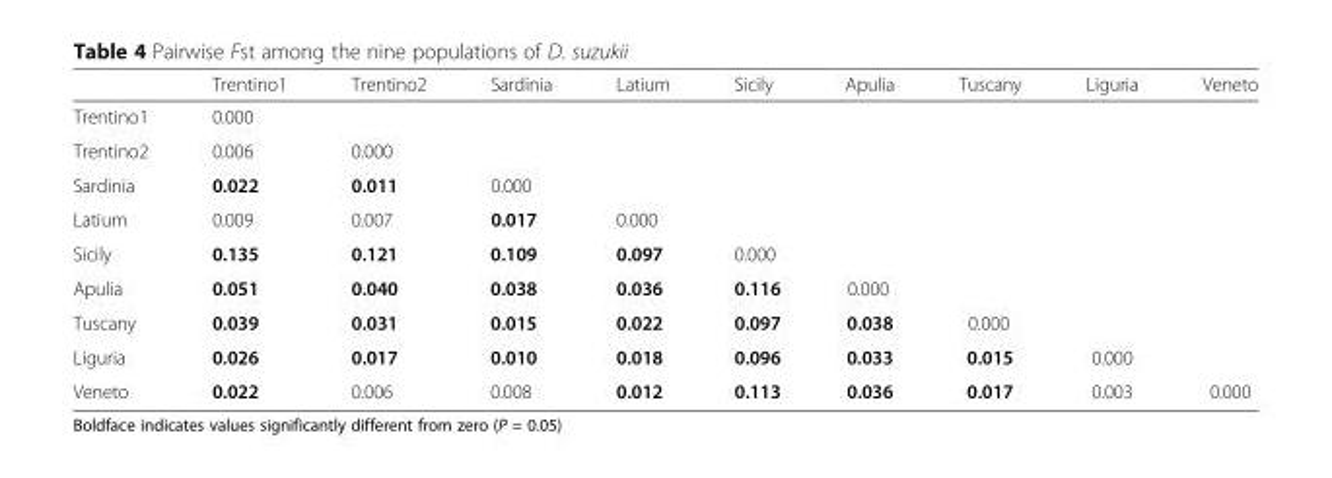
<table><thead><tr><td></td><td>Trentino1</td><td>Trentino2</td><td>Sardinia</td><td>Latium</td><td>Sicily</td><td>Apulia</td><td>Tuscany</td><td>Liguria</td><td>Veneto</td></tr></thead><tbody><tr><td>Trentino1</td><td>0.000</td><td></td><td></td><td></td><td></td><td></td><td></td><td></td><td rowspan="8"></td></tr><tr><td>Trentino2</td><td>0.006</td><td>0.000</td><td></td><td></td><td></td><td></td><td></td><td></td></tr><tr><td>Sardinia</td><td>0.022</td><td>0.011</td><td>0.000</td><td></td><td></td><td></td><td></td><td></td></tr><tr><td>Latium</td><td>0.009</td><td>0.007</td><td>0.017</td><td>0.000</td><td></td><td></td><td></td><td></td></tr><tr><td>Sicily</td><td>0.135</td><td>0.121</td><td>0.109</td><td>0.097</td><td>0.000</td><td></td><td></td><td></td></tr><tr><td>Apulia</td><td>0.051</td><td>0.040</td><td>0.038</td><td>0.036</td><td>0.116</td><td>0.000</td><td></td><td></td></tr><tr><td>Tuscany</td><td>0.039</td><td>0.031</td><td>0.015</td><td>0.022</td><td>0.097</td><td>0.038</td><td>0.000</td><td></td></tr><tr><td>Liguria</td><td>0.026</td><td>0.017</td><td>0.010</td><td>0.018</td><td>0.096</td><td>0.033</td><td>0.015</td><td>0.000</td></tr><tr><td>Veneto</td><td>0.022</td><td>0.006</td><td>0.008</td><td>0.012</td><td>0.113</td><td>0.036</td><td>0.017</td><td>0.003</td><td>0.000</td></tr></tbody></table>